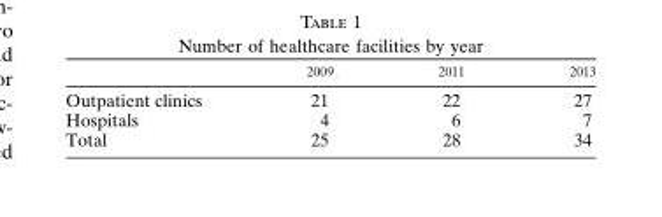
<table><thead><tr><td></td><td>2009</td><td>2011</td><td>2013</td></tr></thead><tbody><tr><td>Outpatient clinics</td><td>21</td><td>22</td><td>27</td></tr><tr><td>Hospitals</td><td>4</td><td>6</td><td>7</td></tr><tr><td>Total</td><td>25</td><td>28</td><td>34</td></tr></tbody></table>